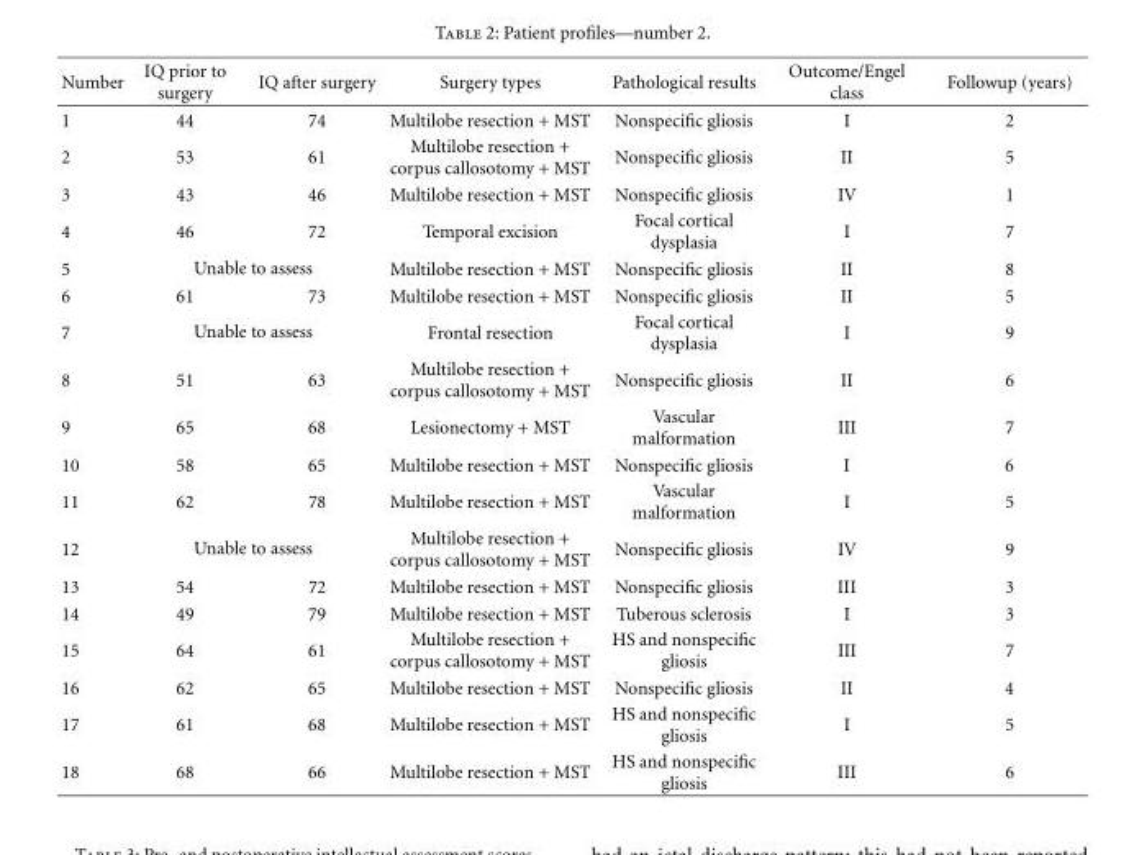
<table><thead><tr><td>Number</td><td>IQ prior to surgery</td><td>IQ after surgery</td><td>Surgery types</td><td>Pathological results</td><td>Outcome/Engel class</td><td>Followup (years)</td></tr></thead><tbody><tr><td>1</td><td>44</td><td>74</td><td>Multilobe resection + MST</td><td>Nonspecific gliosis</td><td>I</td><td>2</td></tr><tr><td>2</td><td>53</td><td>61</td><td>Multilobe resection + corpus callosotomy + MST</td><td>Nonspecific gliosis</td><td>II</td><td>5</td></tr><tr><td>3</td><td>43</td><td>46</td><td>Multilobe resection + MST</td><td>Nonspecific gliosis</td><td>IV</td><td>1</td></tr><tr><td>4</td><td>46</td><td>72</td><td>Temporal excision</td><td>Focal cortical dysplasia</td><td>I</td><td>7</td></tr><tr><td>5</td><td colspan="2">Unable to assess</td><td>Multilobe resection + MST</td><td>Nonspecific gliosis</td><td>II</td><td>8</td></tr><tr><td>6</td><td>61</td><td>73</td><td>Multilobe resection + MST</td><td>Nonspecific gliosis</td><td>II</td><td>5</td></tr><tr><td>7</td><td colspan="2">Unable to assess</td><td>Frontal resection</td><td>Focal cortical dysplasia</td><td>I</td><td>9</td></tr><tr><td>8</td><td>51</td><td>63</td><td>Multilobe resection + corpus callosotomy + MST</td><td>Nonspecific gliosis</td><td>II</td><td>6</td></tr><tr><td>9</td><td>65</td><td>68</td><td>Lesionectomy + MST</td><td>Vascular malformation</td><td>III</td><td>7</td></tr><tr><td>10</td><td>58</td><td>65</td><td>Multilobe resection + MST</td><td>Nonspecific gliosis</td><td>I</td><td>6</td></tr><tr><td>11</td><td>62</td><td>78</td><td>Multilobe resection + MST</td><td>Vascular malformation</td><td>I</td><td>5</td></tr><tr><td>12</td><td colspan="2">Unable to assess</td><td>Multilobe resection + corpus callosotomy + MST</td><td>Nonspecific gliosis</td><td>IV</td><td>9</td></tr><tr><td>13</td><td>54</td><td>72</td><td>Multilobe resection + MST</td><td>Nonspecific gliosis</td><td>III</td><td>3</td></tr><tr><td>14</td><td>49</td><td>79</td><td>Multilobe resection + MST</td><td>Tuberous sclerosis</td><td>I</td><td>3</td></tr><tr><td>15</td><td>64</td><td>61</td><td>Multilobe resection + corpus callosotomy + MST</td><td>HS and nonspecific gliosis</td><td>III</td><td>7</td></tr><tr><td>16</td><td>62</td><td>65</td><td>Multilobe resection + MST</td><td>Nonspecific gliosis</td><td>II</td><td>4</td></tr><tr><td>17</td><td>61</td><td>68</td><td>Multilobe resection + MST</td><td>HS and nonspecific gliosis</td><td>I</td><td>5</td></tr><tr><td>18</td><td>68</td><td>66</td><td>Multilobe resection + MST</td><td>HS and nonspecific gliosis</td><td>III</td><td>6</td></tr></tbody></table>